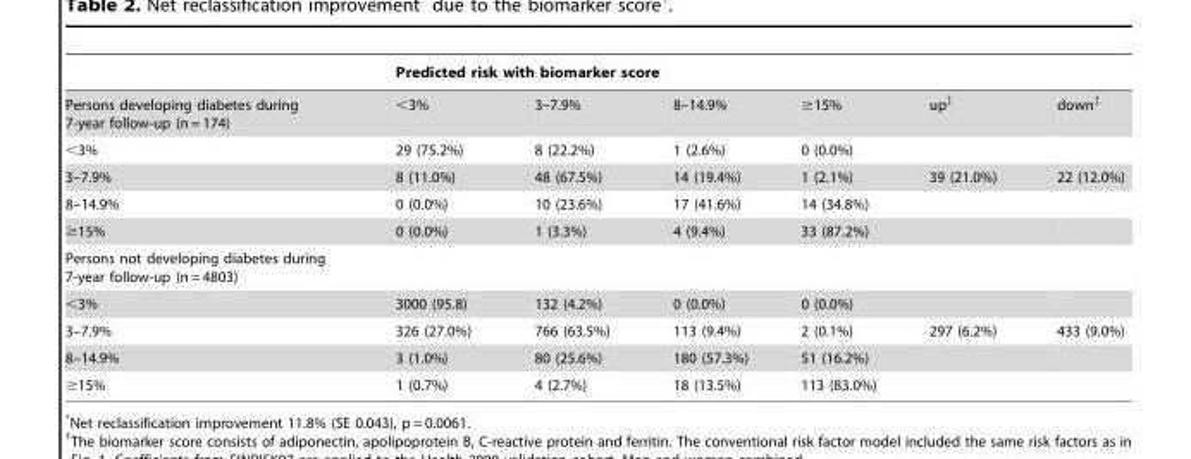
<table><thead><tr><td rowspan="2">Persons developing diabetes during 7-year follow-up (n = 174)</td><td colspan="6">Predicted risk with biomarker score</td></tr><tr><td>&lt;3%</td><td>3–7.9%</td><td>8–14.9%</td><td>≥15%</td><td>up‡</td><td>down‡</td></tr></thead><tbody><tr><td>&lt;3%</td><td>29 (75.2%)</td><td>8 (22.2%)</td><td>1 (2.6%)</td><td>0 (0.0%)</td><td></td><td></td></tr><tr><td>3–7.9%</td><td>8 (11.0%)</td><td>48 (67.5%)</td><td>14 (19.4%)</td><td>1 (2.1%)</td><td>39 (21.0%)</td><td>22 (12.0%)</td></tr><tr><td>8–14.9%</td><td>0 (0.0%)</td><td>10 (23.6%)</td><td>17 (41.6%)</td><td>14 (34.8%)</td><td></td><td></td></tr><tr><td>≥15%</td><td>0 (0.0%)</td><td>1 (3.3%)</td><td>4 (9.4%)</td><td>33 (87.2%)</td><td></td><td></td></tr><tr><td colspan="7">Persons not developing diabetes during 7-year follow-up (n = 4803)</td></tr><tr><td>&lt;3%</td><td>3000 (95.8)</td><td>132 (4.2%)</td><td>0 (0.0%)</td><td>0 (0.0%)</td><td></td><td></td></tr><tr><td>3–7.9%</td><td>326 (27.0%)</td><td>766 (63.5%)</td><td>113 (9.4%)</td><td>2 (0.1%)</td><td>297 (6.2%)</td><td>433 (9.0%)</td></tr><tr><td>8–14.9%</td><td>3 (1.0%)</td><td>80 (25.6%)</td><td>180 (57.3%)</td><td>51 (16.2%)</td><td></td><td></td></tr><tr><td>≥15%</td><td>1 (0.7%)</td><td>4 (2.7%)</td><td>18 (13.5%)</td><td>113 (83.0%)</td><td></td><td></td></tr></tbody></table>